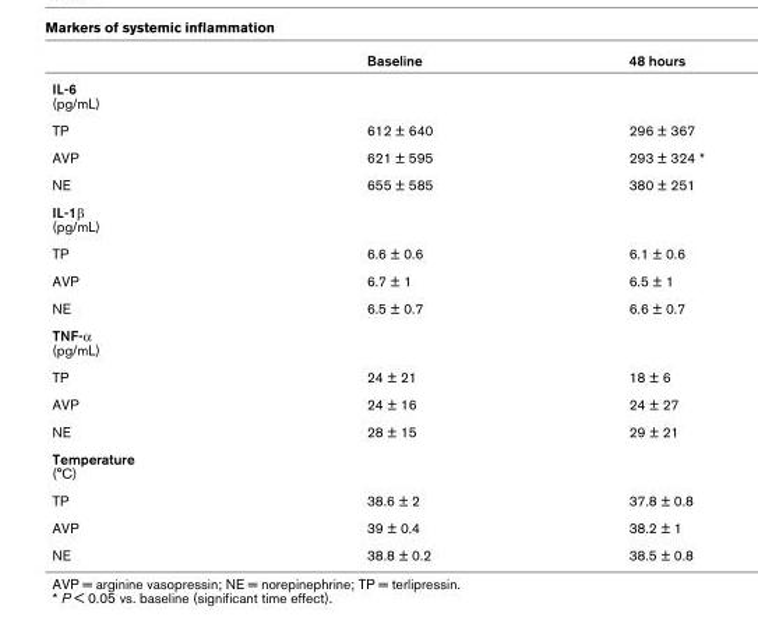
<table><thead><tr><td></td><td>Baseline</td><td>48 hours</td></tr></thead><tbody><tr><td colspan="3">IL-6 (pg/mL)</td></tr><tr><td>TP</td><td>612 ± 640</td><td>296 ± 367</td></tr><tr><td>AVP</td><td>621 ± 595</td><td>293 ± 324 *</td></tr><tr><td>NE</td><td>655 ± 585</td><td>380 ± 251</td></tr><tr><td colspan="3">IL-1β (pg/mL)</td></tr><tr><td>TP</td><td>6.6 ± 0.6</td><td>6.1 ± 0.6</td></tr><tr><td>AVP</td><td>6.7 ± 1</td><td>6.5 ± 1</td></tr><tr><td>NE</td><td>6.5 ± 0.7</td><td>6.6 ± 0.7</td></tr><tr><td colspan="3">TNF-α (pg/mL)</td></tr><tr><td>TP</td><td>24 ± 21</td><td>18 ± 6</td></tr><tr><td>AVP</td><td>24 ± 16</td><td>24 ± 27</td></tr><tr><td>NE</td><td>28 ± 15</td><td>29 ± 21</td></tr><tr><td colspan="3">Temperature (°C)</td></tr><tr><td>TP</td><td>38.6 ± 2</td><td>37.8 ± 0.8</td></tr><tr><td>AVP</td><td>39 ± 0.4</td><td>38.2 ± 1</td></tr><tr><td>NE</td><td>38.8 ± 0.2</td><td>38.5 ± 0.8</td></tr></tbody></table>